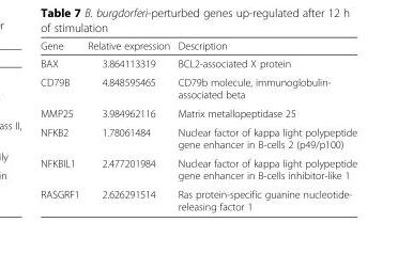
<table><thead><tr><td>Gene</td><td>Relative expression</td><td>Description</td></tr></thead><tbody><tr><td>BAX</td><td>3.864113319</td><td>BCL2-associated X protein</td></tr><tr><td>CD79B</td><td>4.848595465</td><td>CD79b molecule, immunoglobulin- associated beta</td></tr><tr><td>MMP25</td><td>3.984962116</td><td>Matrix metallopeptidase 25</td></tr><tr><td>NFKB2</td><td>1.78061484</td><td>Nuclear factor of kappa light polypeptide gene enhancer in B-cells 2 (p49/p100)</td></tr><tr><td>NFKBIL1</td><td>2.477201984</td><td>Nuclear factor of kappa light polypeptide gene enhancer in B-cells inhibitor-like 1</td></tr><tr><td>RASGRF1</td><td>2.626291514</td><td>Ras protein-specific guanine nucleotide- releasing factor 1</td></tr></tbody></table>